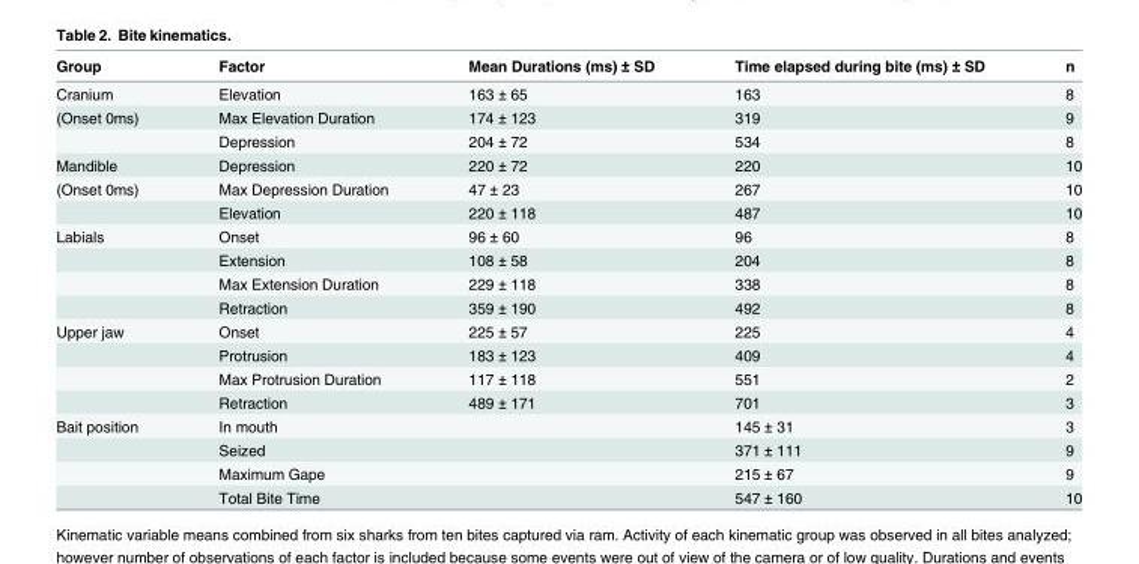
<table><thead><tr><td>Group</td><td>Factor</td><td>Mean Durations (ms) ± SD</td><td>Time elapsed during bite (ms) ± SD</td><td>n</td></tr></thead><tbody><tr><td>Cranium</td><td>Elevation</td><td>163 ± 65</td><td>163</td><td>8</td></tr><tr><td rowspan="2">(Onset 0ms)</td><td>Max Elevation Duration</td><td>174 ± 123</td><td>319</td><td>9</td></tr><tr><td>Depression</td><td>204 ± 72</td><td>534</td><td>8</td></tr><tr><td>Mandible</td><td>Depression</td><td>220 ± 72</td><td>220</td><td>10</td></tr><tr><td rowspan="2">(Onset 0ms)</td><td>Max Depression Duration</td><td>47 ± 23</td><td>267</td><td>10</td></tr><tr><td>Elevation</td><td>220 ± 118</td><td>487</td><td>10</td></tr><tr><td rowspan="4">Labials</td><td>Onset</td><td>96 ± 60</td><td>96</td><td>8</td></tr><tr><td>Extension</td><td>108 ± 58</td><td>204</td><td>8</td></tr><tr><td>Max Extension Duration</td><td>229 ± 118</td><td>338</td><td>8</td></tr><tr><td>Retraction</td><td>359 ± 190</td><td>492</td><td>8</td></tr><tr><td rowspan="4">Upper jaw</td><td>Onset</td><td>225 ± 57</td><td>225</td><td>4</td></tr><tr><td>Protrusion</td><td>183 ± 123</td><td>409</td><td>4</td></tr><tr><td>Max Protrusion Duration</td><td>117 ± 118</td><td>551</td><td>2</td></tr><tr><td>Retraction</td><td>489 ± 171</td><td>701</td><td>3</td></tr><tr><td rowspan="4">Bait position</td><td>In mouth</td><td></td><td>145 ± 31</td><td>3</td></tr><tr><td>Seized</td><td></td><td>371 ± 111</td><td>9</td></tr><tr><td>Maximum Gape</td><td></td><td>215 ± 67</td><td>9</td></tr><tr><td>Total Bite Time</td><td></td><td>547 ± 160</td><td>10</td></tr></tbody></table>